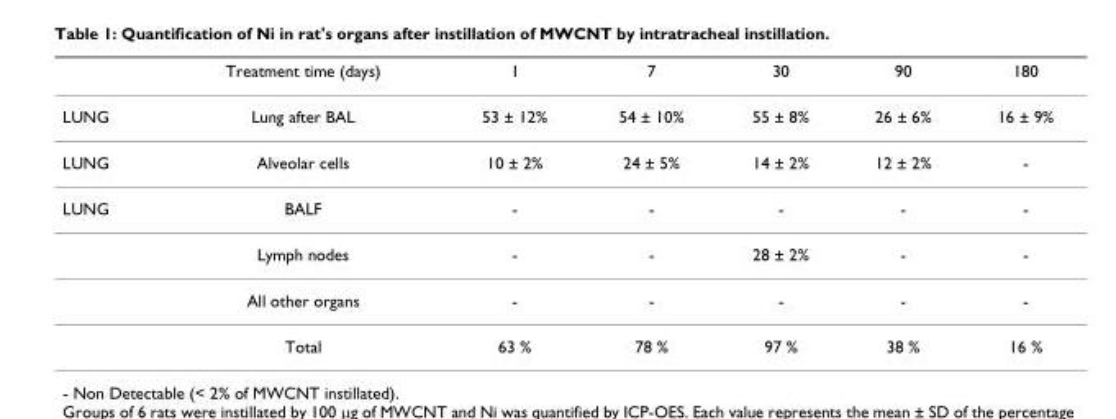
<table><thead><tr><td></td><td>Treatment time (days)</td><td>1</td><td>7</td><td>30</td><td>90</td><td>180</td></tr></thead><tbody><tr><td>LUNG</td><td>Lung after BAL</td><td>53 ± 12%</td><td>54 ± 10%</td><td>55 ± 8%</td><td>26 ± 6%</td><td>16 ± 9%</td></tr><tr><td>LUNG</td><td>Alveolar cells</td><td>10 ± 2%</td><td>24 ± 5%</td><td>14 ± 2%</td><td>12 ± 2%</td><td>-</td></tr><tr><td rowspan="4">LUNG</td><td>BALF</td><td>-</td><td>-</td><td>-</td><td>-</td><td>-</td></tr><tr><td>Lymph nodes</td><td>-</td><td>-</td><td>28 ± 2%</td><td>-</td><td>-</td></tr><tr><td>All other organs</td><td>-</td><td>-</td><td>-</td><td>-</td><td>-</td></tr><tr><td>Total</td><td>63 %</td><td>78 %</td><td>97 %</td><td>38 %</td><td>16 %</td></tr></tbody></table>